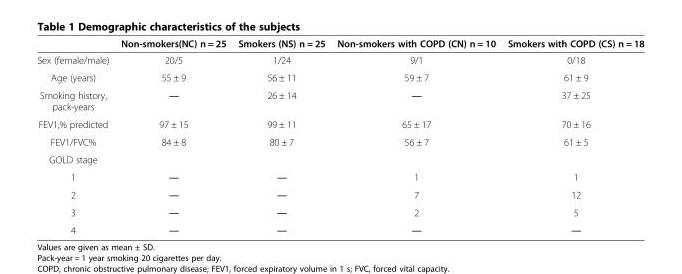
<table><thead><tr><td></td><td>Non-smokers(NC) n = 25</td><td>Smokers (NS) n = 25</td><td>Non-smokers with COPD (CN) n = 10</td><td>Smokers with COPD (CS) n = 18</td></tr></thead><tbody><tr><td>Sex (female/male)</td><td>20/5</td><td>1/24</td><td>9/1</td><td>0/18</td></tr><tr><td>Age (years)</td><td>55 ± 9</td><td>56 ± 11</td><td>59 ± 7</td><td>61 ± 9</td></tr><tr><td>Smoking history, pack-years</td><td>―</td><td>26 ± 14</td><td>―</td><td>37 ± 25</td></tr><tr><td>FEV1,% predicted</td><td>97 ± 15</td><td>99 ± 11</td><td>65 ± 17</td><td>70 ± 16</td></tr><tr><td>FEV1/FVC%</td><td>84 ± 8</td><td>80 ± 7</td><td>56 ± 7</td><td>61 ± 5</td></tr><tr><td colspan="5">GOLD stage</td></tr><tr><td>1</td><td>―</td><td>―</td><td>1</td><td>1</td></tr><tr><td>2</td><td>―</td><td>―</td><td>7</td><td>12</td></tr><tr><td>3</td><td>―</td><td>―</td><td>2</td><td>5</td></tr><tr><td>4</td><td>―</td><td>―</td><td>―</td><td>―</td></tr></tbody></table>